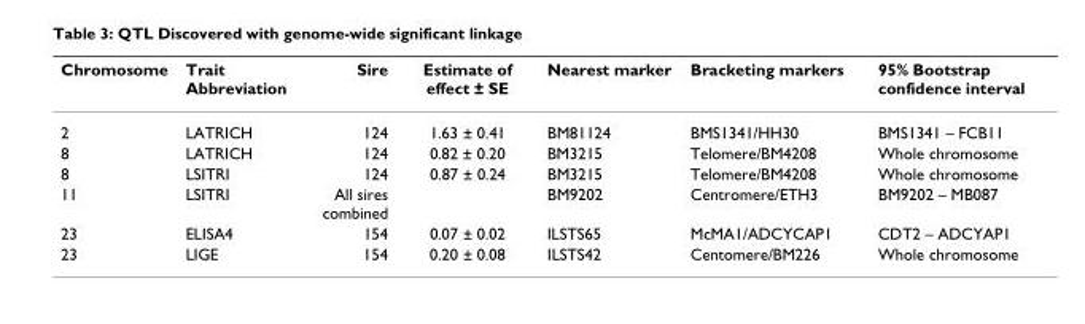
<table><thead><tr><td>Chromosome</td><td>Trait Abbreviation</td><td>Sire</td><td>Estimate of effect ± SE</td><td>Nearest marker</td><td>Bracketing markers</td><td>95% Bootstrap confidence interval</td></tr></thead><tbody><tr><td>2</td><td>LATRICH</td><td>124</td><td>1.63 ± 0.41</td><td>BM81124</td><td>BMS1341/HH30</td><td>BMS1341 – FCB11</td></tr><tr><td>8</td><td>LATRICH</td><td>124</td><td>0.82 ± 0.20</td><td>BM3215</td><td>Telomere/BM4208</td><td>Whole chromosome</td></tr><tr><td>8</td><td>LSITRI</td><td>124</td><td>0.87 ± 0.24</td><td>BM3215</td><td>Telomere/BM4208</td><td>Whole chromosome</td></tr><tr><td>11</td><td>LSITRI</td><td>All sires combined</td><td></td><td>BM9202</td><td>Centromere/ETH3</td><td>BM9202 – MB087</td></tr><tr><td>23</td><td>ELISA4</td><td>154</td><td>0.07 ± 0.02</td><td>ILSTS65</td><td>McMA1/ADCYCAP1</td><td>CDT2 – ADCYAP1</td></tr><tr><td>23</td><td>LIGE</td><td>154</td><td>0.20 ± 0.08</td><td>ILSTS42</td><td>Centomere/BM226</td><td>Whole chromosome</td></tr></tbody></table>